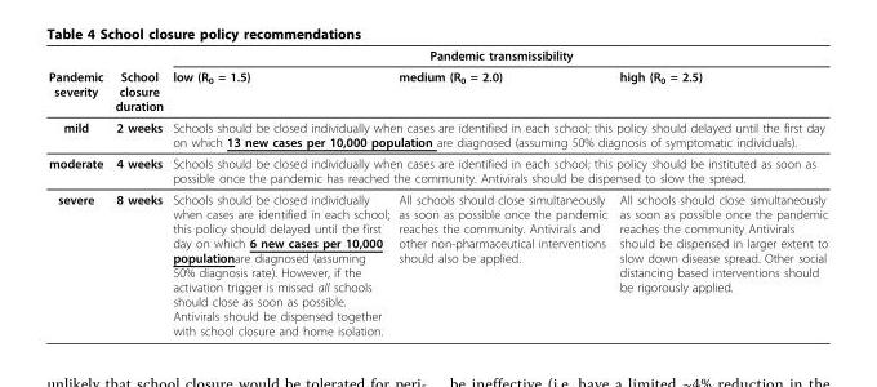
<table><thead><tr><td rowspan="2">Pandemic severity</td><td rowspan="2">School closure duration</td><td colspan="3">Pandemic transmissibility</td></tr><tr><td>low (R<sub>0</sub> = 1.5)</td><td>medium (R<sub>0</sub> = 2.0)</td><td>high (R<sub>0</sub> = 2.5)</td></tr></thead><tbody><tr><td>mild</td><td>2 weeks</td><td colspan="3">Schools should be closed individually when cases are identified in each school; this policy should delayed until the first day on which 13 new cases per 10,000 population are diagnosed (assuming 50% diagnosis of symptomatic individuals).</td></tr><tr><td>moderate</td><td>4 weeks</td><td colspan="3">Schools should be closed individually when cases are identified in each school; this policy should be instituted as soon as possible once the pandemic has reached the community. Antivirals should be dispensed to slow the spread.</td></tr><tr><td>severe</td><td>8 weeks</td><td>Schools should be closed individually when cases are identified in each school; this policy should delayed until the first day on which 6 new cases per 10,000 populationare diagnosed (assuming 50% diagnosis rate). However, if the activation trigger is missed all schools should close as soon as possible. Antivirals should be dispensed together with school closure and home isolation.</td><td>All schools should close simultaneously as soon as possible once the pandemic reaches the community. Antivirals and other non-pharmaceutical interventions should also be applied.</td><td>All schools should close simultaneously as soon as possible once the pandemic reaches the community Antivirals should be dispensed in larger extent to slow down disease spread. Other social distancing based interventions should be rigorously applied.</td></tr></tbody></table>